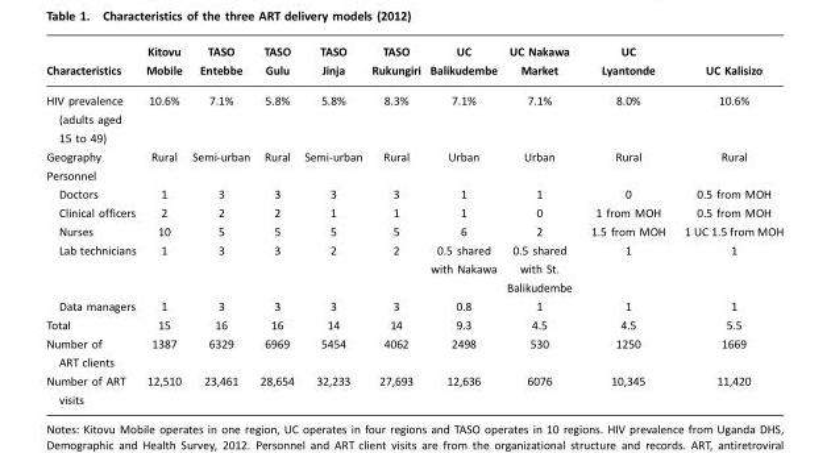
<table><thead><tr><td>Characteristics</td><td>Kitovu Mobile</td><td>TASO Entebbe</td><td>TASO Gulu</td><td>TASO Jinja</td><td>TASO Rukungiri</td><td>UC Balikudembe</td><td>UC Nakawa Market</td><td>UC Lyantonde</td><td>UC Kalisizo</td></tr></thead><tbody><tr><td>HIV prevalence (adults aged 15 to 49)</td><td>10.6%</td><td>7.1%</td><td>5.8%</td><td>5.8%</td><td>8.3%</td><td>7.1%</td><td>7.1%</td><td>8.0%</td><td>10.6%</td></tr><tr><td>Geography</td><td>Rural</td><td>Semi-urban</td><td>Rural</td><td>Semi-urban</td><td>Rural</td><td>Urban</td><td>Urban</td><td>Rural</td><td>Rural</td></tr><tr><td colspan="10">Personnel</td></tr><tr><td>Doctors</td><td>1</td><td>3</td><td>3</td><td>3</td><td>3</td><td>1</td><td>1</td><td>0</td><td>0.5 from MOH</td></tr><tr><td>Clinical officers</td><td>2</td><td>2</td><td>2</td><td>1</td><td>1</td><td>1</td><td>0</td><td>1 from MOH</td><td>0.5 from MOH</td></tr><tr><td>Nurses</td><td>10</td><td>5</td><td>5</td><td>5</td><td>5</td><td>6</td><td>2</td><td>1.5 from MOH</td><td>1 UC 1.5 from MOH</td></tr><tr><td>Lab technicians</td><td>1</td><td>3</td><td>3</td><td>2</td><td>2</td><td>0.5 shared with Nakawa</td><td>0.5 shared with St. Balikudembe</td><td>1</td><td>1</td></tr><tr><td>Data managers</td><td>1</td><td>3</td><td>3</td><td>3</td><td>3</td><td>0.8</td><td>1</td><td>1</td><td>1</td></tr><tr><td>Total</td><td>15</td><td>16</td><td>16</td><td>14</td><td>14</td><td>9.3</td><td>4.5</td><td>4.5</td><td>5.5</td></tr><tr><td>Number of ART clients</td><td>1387</td><td>6329</td><td>6969</td><td>5454</td><td>4062</td><td>2498</td><td>530</td><td>1250</td><td>1669</td></tr><tr><td>Number of ART visits</td><td>12,510</td><td>23,461</td><td>28,654</td><td>32,233</td><td>27,693</td><td>12,636</td><td>6076</td><td>10,345</td><td>11,420</td></tr></tbody></table>